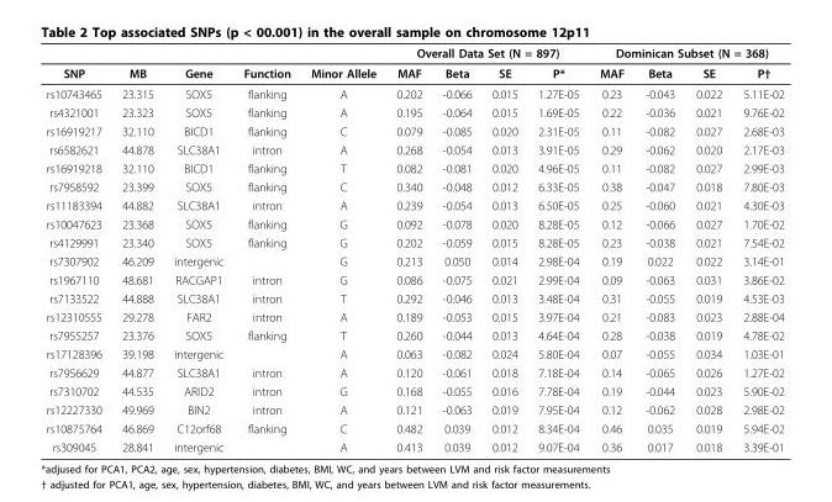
<table><thead><tr><td rowspan="2">SNP</td><td rowspan="2">MB</td><td rowspan="2">Gene</td><td rowspan="2">Function</td><td rowspan="2">Minor Allele</td><td colspan="4">Overall Data Set (N = 897)</td><td colspan="4">Dominican Subset (N = 368)</td></tr><tr><td>MAF</td><td>Beta</td><td>SE</td><td>P*</td><td>MAF</td><td>Beta</td><td>SE</td><td>P†</td></tr></thead><tbody><tr><td>rs10743465</td><td>23.315</td><td>SOX5</td><td>flanking</td><td>A</td><td>0.202</td><td>-0.066</td><td>0.015</td><td>1.27E-05</td><td>0.23</td><td>-0.043</td><td>0.022</td><td>5.11E-02</td></tr><tr><td>rs4321001</td><td>23.323</td><td>SOX5</td><td>flanking</td><td>A</td><td>0.195</td><td>-0.064</td><td>0.015</td><td>1.69E-05</td><td>0.22</td><td>-0.036</td><td>0.021</td><td>9.76E-02</td></tr><tr><td>rs16919217</td><td>32.110</td><td>BICD1</td><td>flanking</td><td>C</td><td>0.079</td><td>-0.085</td><td>0.020</td><td>2.31E-05</td><td>0.11</td><td>-0.082</td><td>0.027</td><td>2.68E-03</td></tr><tr><td>rs6582621</td><td>44.878</td><td>SLC38A1</td><td>intron</td><td>A</td><td>0.268</td><td>-0.054</td><td>0.013</td><td>3.91E-05</td><td>0.29</td><td>-0.062</td><td>0.020</td><td>2.17E-03</td></tr><tr><td>rs16919218</td><td>32.110</td><td>BICD1</td><td>flanking</td><td>T</td><td>0.082</td><td>-0.081</td><td>0.020</td><td>4.96E-05</td><td>0.11</td><td>-0.082</td><td>0.027</td><td>2.99E-03</td></tr><tr><td>rs7958592</td><td>23.399</td><td>SOX5</td><td>flanking</td><td>C</td><td>0.340</td><td>-0.048</td><td>0.012</td><td>6.33E-05</td><td>0.38</td><td>-0.047</td><td>0.018</td><td>7.80E-03</td></tr><tr><td>rs11183394</td><td>44.882</td><td>SLC38A1</td><td>intron</td><td>A</td><td>0.239</td><td>-0.054</td><td>0.013</td><td>6.50E-05</td><td>0.25</td><td>-0.060</td><td>0.021</td><td>4.30E-03</td></tr><tr><td>rs10047623</td><td>23.368</td><td>SOX5</td><td>flanking</td><td>G</td><td>0.092</td><td>-0.078</td><td>0.020</td><td>8.28E-05</td><td>0.12</td><td>-0.066</td><td>0.027</td><td>1.70E-02</td></tr><tr><td>rs4129991</td><td>23.340</td><td>SOX5</td><td>flanking</td><td>G</td><td>0.202</td><td>-0.059</td><td>0.015</td><td>8.28E-05</td><td>0.23</td><td>-0.038</td><td>0.021</td><td>7.54E-02</td></tr><tr><td>rs7307902</td><td>46.209</td><td>intergenic</td><td></td><td>G</td><td>0.213</td><td>0.050</td><td>0.014</td><td>2.98E-04</td><td>0.19</td><td>0.022</td><td>0.022</td><td>3.14E-01</td></tr><tr><td>rs1967110</td><td>48.681</td><td>RACGAP1</td><td>intron</td><td>G</td><td>0.086</td><td>-0.075</td><td>0.021</td><td>2.99E-04</td><td>0.09</td><td>-0.063</td><td>0.031</td><td>3.86E-02</td></tr><tr><td>rs7133522</td><td>44.888</td><td>SLC38A1</td><td>intron</td><td>T</td><td>0.292</td><td>-0.046</td><td>0.013</td><td>3.48E-04</td><td>0.31</td><td>-0.055</td><td>0.019</td><td>4.53E-03</td></tr><tr><td>rs12310555</td><td>29.278</td><td>FAR2</td><td>intron</td><td>A</td><td>0.189</td><td>-0.053</td><td>0.015</td><td>3.97E-04</td><td>0.21</td><td>-0.083</td><td>0.023</td><td>2.88E-04</td></tr><tr><td>rs7955257</td><td>23.376</td><td>SOX5</td><td>flanking</td><td>T</td><td>0.260</td><td>-0.044</td><td>0.013</td><td>4.64E-04</td><td>0.28</td><td>-0.038</td><td>0.019</td><td>4.78E-02</td></tr><tr><td>rs17128396</td><td>39.198</td><td>intergenic</td><td></td><td>A</td><td>0.063</td><td>-0.082</td><td>0.024</td><td>5.80E-04</td><td>0.07</td><td>-0.055</td><td>0.034</td><td>1.03E-01</td></tr><tr><td>rs7956629</td><td>44.877</td><td>SLC38A1</td><td>intron</td><td>A</td><td>0.120</td><td>-0.061</td><td>0.018</td><td>7.18E-04</td><td>0.14</td><td>-0.065</td><td>0.026</td><td>1.27E-02</td></tr><tr><td>rs7310702</td><td>44.535</td><td>ARID2</td><td>intron</td><td>G</td><td>0.168</td><td>-0.055</td><td>0.016</td><td>7.78E-04</td><td>0.19</td><td>-0.044</td><td>0.023</td><td>5.90E-02</td></tr><tr><td>rs12227330</td><td>49.969</td><td>BIN2</td><td>intron</td><td>A</td><td>0.121</td><td>-0.063</td><td>0.019</td><td>7.95E-04</td><td>0.12</td><td>-0.062</td><td>0.028</td><td>2.98E-02</td></tr><tr><td>rs10875764</td><td>46.869</td><td>C12orf68</td><td>flanking</td><td>C</td><td>0.482</td><td>0.039</td><td>0.012</td><td>8.34E-04</td><td>0.46</td><td>0.035</td><td>0.019</td><td>5.94E-02</td></tr><tr><td>rs309045</td><td>28.841</td><td>intergenic</td><td></td><td>A</td><td>0.413</td><td>0.039</td><td>0.012</td><td>9.07E-04</td><td>0.36</td><td>0.017</td><td>0.018</td><td>3.39E-01</td></tr></tbody></table>